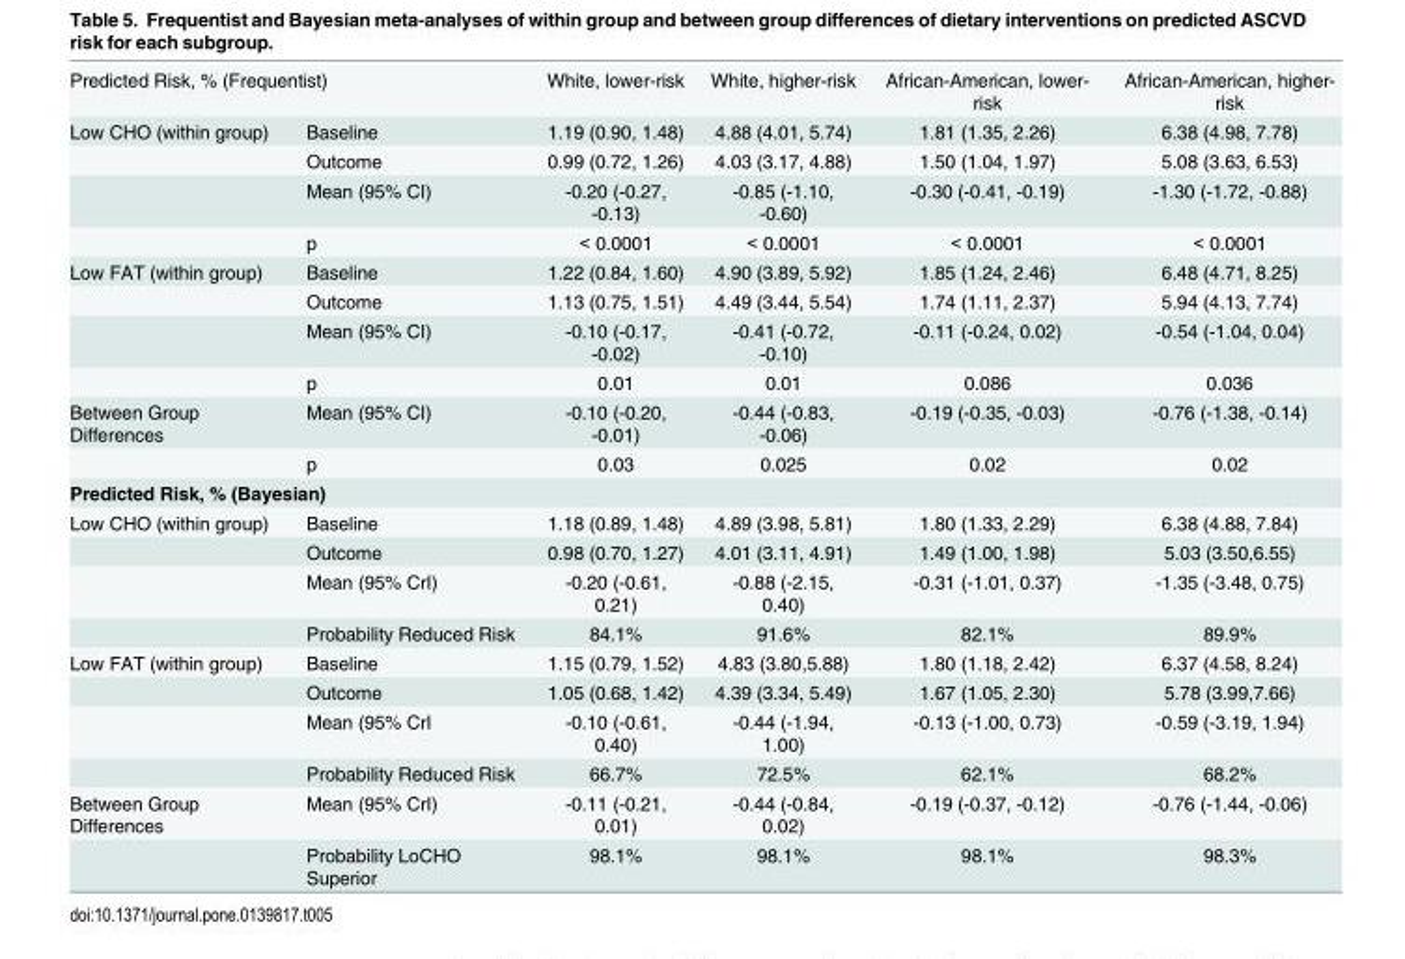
<table><tbody><tr><td colspan="2">Predicted Risk, % (Frequentist)</td><td>White, lower-risk</td><td>White, higher-risk</td><td>African-American, lower- risk</td><td>African-American, higher- risk</td></tr><tr><td rowspan="4">Low CHO (within group)</td><td>Baseline</td><td>1.19 (0.90, 1.48)</td><td>4.88 (4.01, 5.74)</td><td>1.81 (1.35, 2.26)</td><td>6.38 (4.98, 7.78)</td></tr><tr><td>Outcome</td><td>0.99 (0.72, 1.26)</td><td>4.03 (3.17, 4.88)</td><td>1.50 (1.04, 1.97)</td><td>5.08 (3.63, 6.53)</td></tr><tr><td>Mean (95% CI)</td><td>-0.20 (-0.27, -0.13)</td><td>-0.85 (-1.10, -0.60)</td><td>-0.30 (-0.41, -0.19)</td><td>-1.30 (-1.72, -0.88)</td></tr><tr><td>p</td><td>&lt; 0.0001</td><td>&lt; 0.0001</td><td>&lt; 0.0001</td><td>&lt; 0.0001</td></tr><tr><td rowspan="4">Low FAT (within group)</td><td>Baseline</td><td>1.22 (0.84, 1.60)</td><td>4.90 (3.89, 5.92)</td><td>1.85 (1.24, 2.46)</td><td>6.48 (4.71, 8.25)</td></tr><tr><td>Outcome</td><td>1.13 (0.75, 1.51)</td><td>4.49 (3.44, 5.54)</td><td>1.74 (1.11, 2.37)</td><td>5.94 (4.13, 7.74)</td></tr><tr><td>Mean (95% CI)</td><td>-0.10 (-0.17, -0.02)</td><td>-0.41 (-0.72, -0.10)</td><td>-0.11 (-0.24, 0.02)</td><td>-0.54 (-1.04, 0.04)</td></tr><tr><td>p</td><td>0.01</td><td>0.01</td><td>0.086</td><td>0.036</td></tr><tr><td rowspan="2">Between Group Differences</td><td>Mean (95% CI)</td><td>-0.10 (-0.20, -0.01)</td><td>-0.44 (-0.83, -0.06)</td><td>-0.19 (-0.35, -0.03)</td><td>-0.76 (-1.38, -0.14)</td></tr><tr><td>p</td><td>0.03</td><td>0.025</td><td>0.02</td><td>0.02</td></tr><tr><td colspan="6">Predicted Risk, % (Bayesian)</td></tr><tr><td rowspan="4">Low CHO (within group)</td><td>Baseline</td><td>1.18 (0.89, 1.48)</td><td>4.89 (3.98, 5.81)</td><td>1.80 (1.33, 2.29)</td><td>6.38 (4.88, 7.84)</td></tr><tr><td>Outcome</td><td>0.98 (0.70, 1.27)</td><td>4.01 (3.11, 4.91)</td><td>1.49 (1.00, 1.98)</td><td>5.03 (3.50,6.55)</td></tr><tr><td>Mean (95% CrI)</td><td>-0.20 (-0.61, 0.21)</td><td>-0.88 (-2.15, 0.40)</td><td>-0.31 (-1.01, 0.37)</td><td>-1.35 (-3.48, 0.75)</td></tr><tr><td>Probability Reduced Risk</td><td>84.1%</td><td>91.6%</td><td>82.1%</td><td>89.9%</td></tr><tr><td rowspan="4">Low FAT (within group)</td><td>Baseline</td><td>1.15 (0.79, 1.52)</td><td>4.83 (3.80,5.88)</td><td>1.80 (1.18, 2.42)</td><td>6.37 (4.58, 8.24)</td></tr><tr><td>Outcome</td><td>1.05 (0.68, 1.42)</td><td>4.39 (3.34, 5.49)</td><td>1.67 (1.05, 2.30)</td><td>5.78 (3.99,7.66)</td></tr><tr><td>Mean (95% CrI</td><td>-0.10 (-0.61, 0.40)</td><td>-0.44 (-1.94, 1.00)</td><td>-0.13 (-1.00, 0.73)</td><td>-0.59 (-3.19, 1.94)</td></tr><tr><td>Probability Reduced Risk</td><td>66.7%</td><td>72.5%</td><td>62.1%</td><td>68.2%</td></tr><tr><td rowspan="2">Between Group Differences</td><td>Mean (95% CrI)</td><td>-0.11 (-0.21, 0.01)</td><td>-0.44 (-0.84, 0.02)</td><td>-0.19 (-0.37, -0.12)</td><td>-0.76 (-1.44, -0.06)</td></tr><tr><td>Probability LoCHO Superior</td><td>98.1%</td><td>98.1%</td><td>98.1%</td><td>98.3%</td></tr></tbody></table>